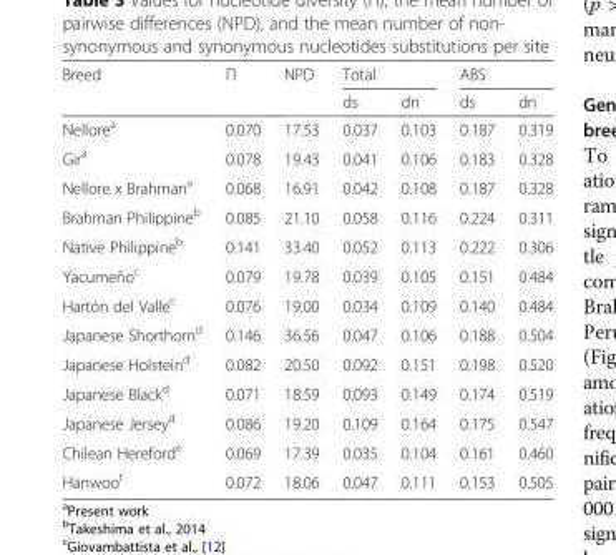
<table><thead><tr><td rowspan="2">Breed</td><td rowspan="2">Π</td><td rowspan="2">NPD</td><td colspan="2">Total</td><td colspan="2">ABS</td></tr><tr><td>ds</td><td>dn</td><td>ds</td><td>dn</td></tr></thead><tbody><tr><td>Nellore<sup>a</sup></td><td>0.070</td><td>17.53</td><td>0.037</td><td>0.103</td><td>0.187</td><td>0.319</td></tr><tr><td>Gir<sup>a</sup></td><td>0.078</td><td>19.43</td><td>0.041</td><td>0.106</td><td>0.183</td><td>0.328</td></tr><tr><td>Nellore x Brahman<sup>a</sup></td><td>0.068</td><td>16.91</td><td>0.042</td><td>0.108</td><td>0.187</td><td>0.328</td></tr><tr><td>Brahman Philippine<sup>b</sup></td><td>0.085</td><td>21.10</td><td>0.058</td><td>0.116</td><td>0.224</td><td>0.311</td></tr><tr><td>Native Philippine<sup>b</sup></td><td>0.141</td><td>33.40</td><td>0.052</td><td>0.113</td><td>0.222</td><td>0.306</td></tr><tr><td>Yacumeño<sup>c</sup></td><td>0.079</td><td>19.78</td><td>0.039</td><td>0.105</td><td>0.151</td><td>0.484</td></tr><tr><td>Hartón del Valle<sup>c</sup></td><td>0.076</td><td>19.00</td><td>0.034</td><td>0.109</td><td>0.140</td><td>0.484</td></tr><tr><td>Japanese Shorthorn<sup>d</sup></td><td>0.146</td><td>36.56</td><td>0.047</td><td>0.106</td><td>0.188</td><td>0.504</td></tr><tr><td>Japanese Holstein<sup>d</sup></td><td>0.082</td><td>20.50</td><td>0.092</td><td>0.151</td><td>0.198</td><td>0.520</td></tr><tr><td>Japanese Black<sup>d</sup></td><td>0.071</td><td>18.59</td><td>0.093</td><td>0.149</td><td>0.174</td><td>0.519</td></tr><tr><td>Japanese Jersey<sup>d</sup></td><td>0.086</td><td>19.20</td><td>0.109</td><td>0.164</td><td>0.175</td><td>0.547</td></tr><tr><td>Chilean Hereford<sup>e</sup></td><td>0.069</td><td>17.39</td><td>0.035</td><td>0.104</td><td>0.161</td><td>0.460</td></tr><tr><td>Hanwoo<sup>f</sup></td><td>0.072</td><td>18.06</td><td>0.047</td><td>0.111</td><td>0.153</td><td>0.505</td></tr></tbody></table>